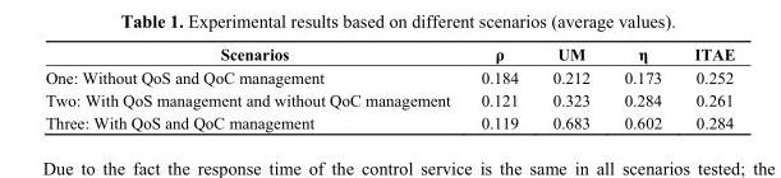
<table><thead><tr><td>Scenarios</td><td>ρ</td><td>UM</td><td>η</td><td>ITAE</td></tr></thead><tbody><tr><td>One: Without QoS and QoC management</td><td>0.184</td><td>0.212</td><td>0.173</td><td>0.252</td></tr><tr><td>Two: With QoS management and without QoC management</td><td>0.121</td><td>0.323</td><td>0.284</td><td>0.261</td></tr><tr><td>Three: With QoS and QoC management</td><td>0.119</td><td>0.683</td><td>0.602</td><td>0.284</td></tr></tbody></table>